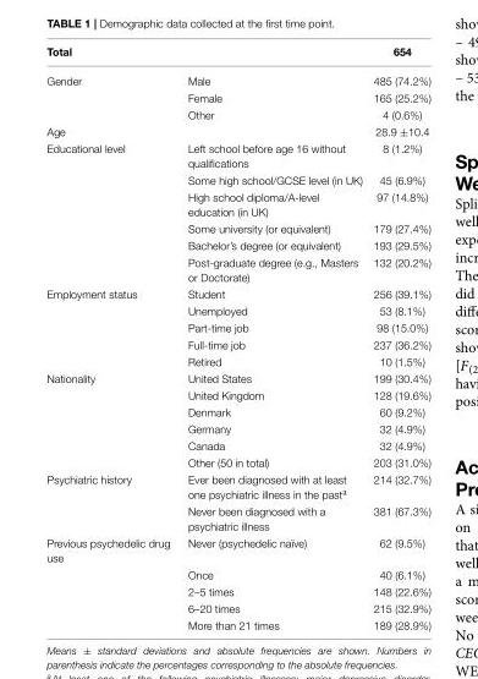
<table><thead><tr><td>Total</td><td></td><td>654</td></tr></thead><tbody><tr><td rowspan="3">Gender</td><td>Male</td><td>485 (74.2%)</td></tr><tr><td>Female</td><td>165 (25.2%)</td></tr><tr><td>Other</td><td>4 (0.6%)</td></tr><tr><td>Age</td><td></td><td>28.9 ±10.4</td></tr><tr><td rowspan="6">Educational level</td><td>Left school before age 16 without qualifications</td><td>8 (1.2%)</td></tr><tr><td>Some high school/GCSE level (in UK)</td><td>45 (6.9%)</td></tr><tr><td>High school diploma/A-level education (in UK)</td><td>97 (14.8%)</td></tr><tr><td>Some university (or equivalent)</td><td>179 (27.4%)</td></tr><tr><td>Bachelor’s degree (or equivalent)</td><td>193 (29.5%)</td></tr><tr><td>Post-graduate degree (e.g., Masters or Doctorate)</td><td>132 (20.2%)</td></tr><tr><td rowspan="5">Employment status</td><td>Student</td><td>256 (39.1%)</td></tr><tr><td>Unemployed</td><td>53 (8.1%)</td></tr><tr><td>Part-time job</td><td>98 (15.0%)</td></tr><tr><td>Full-time job</td><td>237 (36.2%)</td></tr><tr><td>Retired</td><td>10 (1.5%)</td></tr><tr><td rowspan="6">Nationality</td><td>United States</td><td>199 (30.4%)</td></tr><tr><td>United Kingdom</td><td>128 (19.6%)</td></tr><tr><td>Denmark</td><td>60 (9.2%)</td></tr><tr><td>Germany</td><td>32 (4.9%)</td></tr><tr><td>Canada</td><td>32 (4.9%)</td></tr><tr><td>Other (50 in total)</td><td>203 (31.0%)</td></tr><tr><td rowspan="2">Psychiatric history</td><td>Ever been diagnosed with at least one psychiatric illness in the past<sup>a</sup></td><td>214 (32.7%)</td></tr><tr><td>Never been diagnosed with a psychiatric illness</td><td>381 (67.3%)</td></tr><tr><td rowspan="5">Previous psychedelic drug use</td><td>Never (psychedelic naïve)</td><td>62 (9.5%)</td></tr><tr><td>Once</td><td>40 (6.1%)</td></tr><tr><td>2–5 times</td><td>148 (22.6%)</td></tr><tr><td>6–20 times</td><td>215 (32.9%)</td></tr><tr><td>More than 21 times</td><td>189 (28.9%)</td></tr></tbody></table>